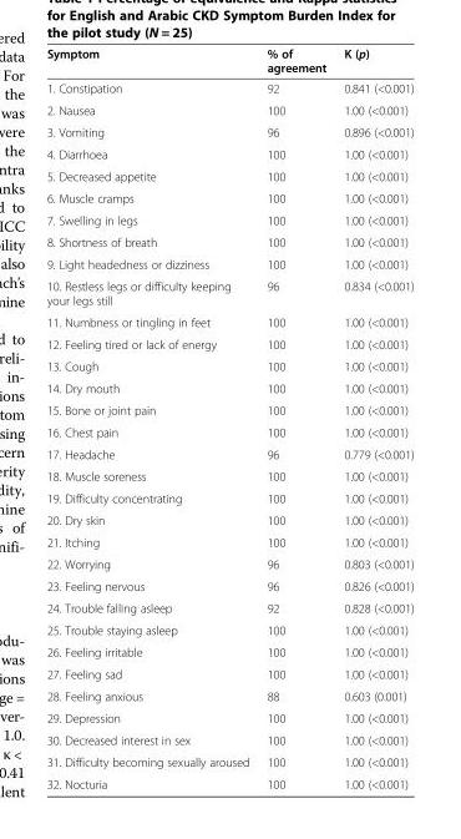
<table><thead><tr><td>Symptom</td><td>% of agreement</td><td>K (p)</td></tr></thead><tbody><tr><td>1. Constipation</td><td>92</td><td>0.841 (&lt;0.001)</td></tr><tr><td>2. Nausea</td><td>100</td><td>1.00 (&lt;0.001)</td></tr><tr><td>3. Vomiting</td><td>96</td><td>0.896 (&lt;0.001)</td></tr><tr><td>4. Diarrhoea</td><td>100</td><td>1.00 (&lt;0.001)</td></tr><tr><td>5. Decreased appetite</td><td>100</td><td>1.00 (&lt;0.001)</td></tr><tr><td>6. Muscle cramps</td><td>100</td><td>1.00 (&lt;0.001)</td></tr><tr><td>7. Swelling in legs</td><td>100</td><td>1.00 (&lt;0.001)</td></tr><tr><td>8. Shortness of breath</td><td>100</td><td>1.00 (&lt;0.001)</td></tr><tr><td>9. Light headedness or dizziness</td><td>100</td><td>1.00 (&lt;0.001)</td></tr><tr><td>10. Restless legs or difficulty keeping your legs still</td><td>96</td><td>0.834 (&lt;0.001)</td></tr><tr><td>11. Numbness or tingling in feet</td><td>100</td><td>1.00 (&lt;0.001)</td></tr><tr><td>12. Feeling tired or lack of energy</td><td>100</td><td>1.00 (&lt;0.001)</td></tr><tr><td>13. Cough</td><td>100</td><td>1.00 (&lt;0.001)</td></tr><tr><td>14. Dry mouth</td><td>100</td><td>1.00 (&lt;0.001)</td></tr><tr><td>15. Bone or joint pain</td><td>100</td><td>1.00 (&lt;0.001)</td></tr><tr><td>16. Chest pain</td><td>100</td><td>1.00 (&lt;0.001)</td></tr><tr><td>17. Headache</td><td>96</td><td>0.779 (&lt;0.001)</td></tr><tr><td>18. Muscle soreness</td><td>100</td><td>1.00 (&lt;0.001)</td></tr><tr><td>19. Difficulty concentrating</td><td>100</td><td>1.00 (&lt;0.001)</td></tr><tr><td>20. Dry skin</td><td>100</td><td>1.00 (&lt;0.001)</td></tr><tr><td>21. Itching</td><td>100</td><td>1.00 (&lt;0.001)</td></tr><tr><td>22. Worrying</td><td>96</td><td>0.803 (&lt;0.001)</td></tr><tr><td>23. Feeling nervous</td><td>96</td><td>0.826 (&lt;0.001)</td></tr><tr><td>24. Trouble falling asleep</td><td>92</td><td>0.828 (&lt;0.001)</td></tr><tr><td>25. Trouble staying asleep</td><td>100</td><td>1.00 (&lt;0.001)</td></tr><tr><td>26. Feeling irritable</td><td>100</td><td>1.00 (&lt;0.001)</td></tr><tr><td>27. Feeling sad</td><td>100</td><td>1.00 (&lt;0.001)</td></tr><tr><td>28. Feeling anxious</td><td>88</td><td>0.603 (0.001)</td></tr><tr><td>29. Depression</td><td>100</td><td>1.00 (&lt;0.001)</td></tr><tr><td>30. Decreased interest in sex</td><td>100</td><td>1.00 (&lt;0.001)</td></tr><tr><td>31. Difficulty becoming sexually aroused</td><td>100</td><td>1.00 (&lt;0.001)</td></tr><tr><td>32. Nocturia</td><td>100</td><td>1.00 (&lt;0.001)</td></tr></tbody></table>